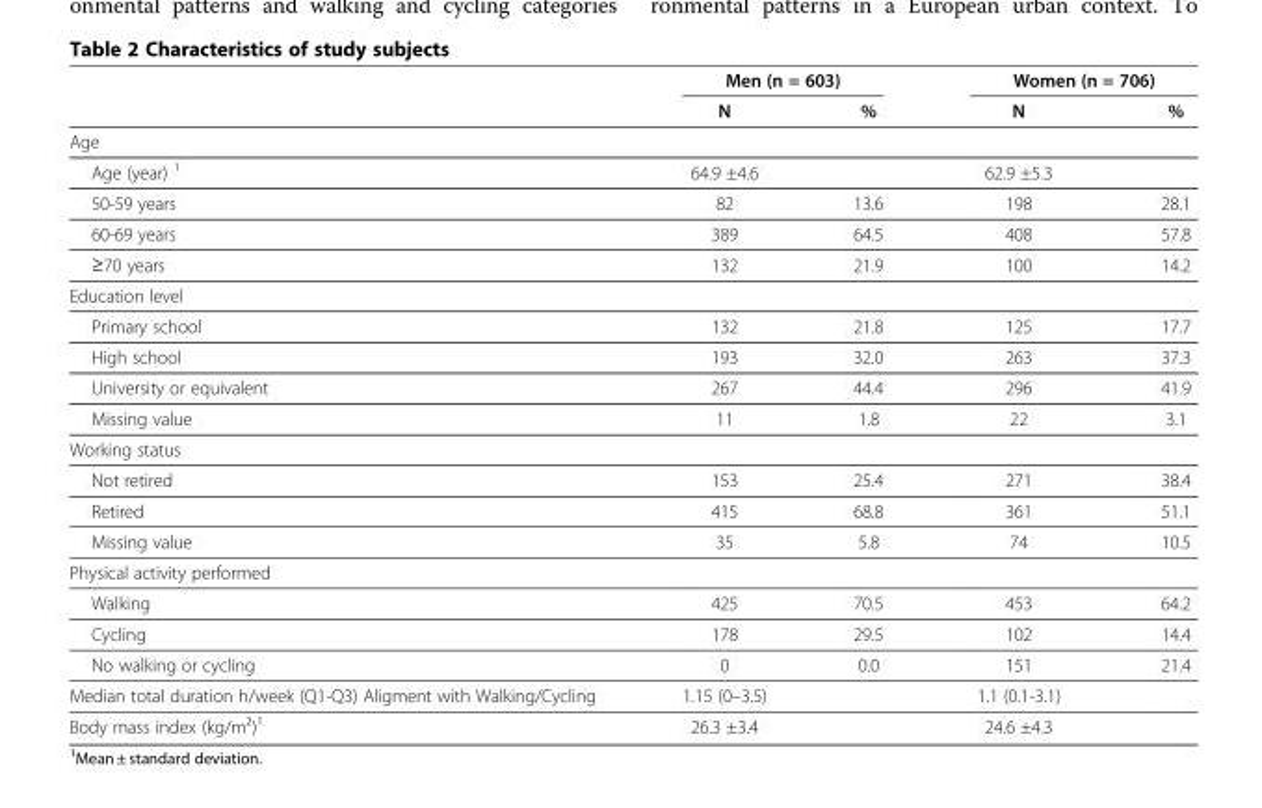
<table><thead><tr><td rowspan="2"></td><td colspan="2">Men (n = 603)</td><td colspan="2">Women (n = 706)</td></tr><tr><td>N</td><td>%</td><td>N</td><td>%</td></tr></thead><tbody><tr><td colspan="5">Age</td></tr><tr><td>Age (year) <sup>1</sup></td><td>64.9 ±4.6</td><td></td><td>62.9 ±5.3</td><td></td></tr><tr><td>50-59 years</td><td>82</td><td>13.6</td><td>198</td><td>28.1</td></tr><tr><td>60-69 years</td><td>389</td><td>64.5</td><td>408</td><td>57.8</td></tr><tr><td>≥70 years</td><td>132</td><td>21.9</td><td>100</td><td>14.2</td></tr><tr><td colspan="5">Education level</td></tr><tr><td>Primary school</td><td>132</td><td>21.8</td><td>125</td><td>17.7</td></tr><tr><td>High school</td><td>193</td><td>32.0</td><td>263</td><td>37.3</td></tr><tr><td>University or equivalent</td><td>267</td><td>44.4</td><td>296</td><td>41.9</td></tr><tr><td>Missing value</td><td>11</td><td>1.8</td><td>22</td><td>3.1</td></tr><tr><td colspan="5">Working status</td></tr><tr><td>Not retired</td><td>153</td><td>25.4</td><td>271</td><td>38.4</td></tr><tr><td>Retired</td><td>415</td><td>68.8</td><td>361</td><td>51.1</td></tr><tr><td>Missing value</td><td>35</td><td>5.8</td><td>74</td><td>10.5</td></tr><tr><td colspan="5">Physical activity performed</td></tr><tr><td>Walking</td><td>425</td><td>70.5</td><td>453</td><td>64.2</td></tr><tr><td>Cycling</td><td>178</td><td>29.5</td><td>102</td><td>14.4</td></tr><tr><td>No walking or cycling</td><td>0</td><td>0.0</td><td>151</td><td>21.4</td></tr><tr><td>Median total duration h/week (Q1-Q3) Aligment with Walking/Cycling</td><td>1.15 (0–3.5)</td><td></td><td>1.1 (0.1-3.1)</td><td></td></tr><tr><td>Body mass index (kg/m²)<sup>1</sup></td><td>26.3 ±3.4</td><td></td><td>24.6 ±4.3</td><td></td></tr></tbody></table>